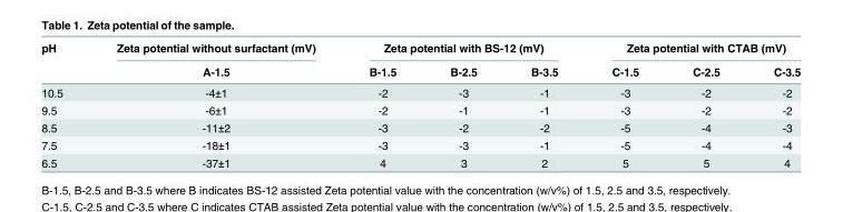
<table><thead><tr><td rowspan="2">pH</td><td rowspan="2">Zeta potential without surfactant (mV) A-1.5</td><td colspan="3">Zeta potential with BS-12 (mV)</td><td colspan="3">Zeta potential with CTAB (mV)</td></tr><tr><td>B-1.5</td><td>B-2.5</td><td>B-3.5</td><td>C-1.5</td><td>C-2.5</td><td>C-3.5</td></tr></thead><tbody><tr><td>10.5</td><td>-4±1</td><td>-2</td><td>-3</td><td>-1</td><td>-3</td><td>-2</td><td>-2</td></tr><tr><td>9.5</td><td>-6±1</td><td>-2</td><td>-1</td><td>-1</td><td>-3</td><td>-2</td><td>-2</td></tr><tr><td>8.5</td><td>-11±2</td><td>-3</td><td>-2</td><td>-2</td><td>-5</td><td>-4</td><td>-3</td></tr><tr><td>7.5</td><td>-18±1</td><td>-3</td><td>-3</td><td>-1</td><td>-5</td><td>-4</td><td>-4</td></tr><tr><td>6.5</td><td>-37±1</td><td>4</td><td>3</td><td>2</td><td>5</td><td>5</td><td>4</td></tr></tbody></table>